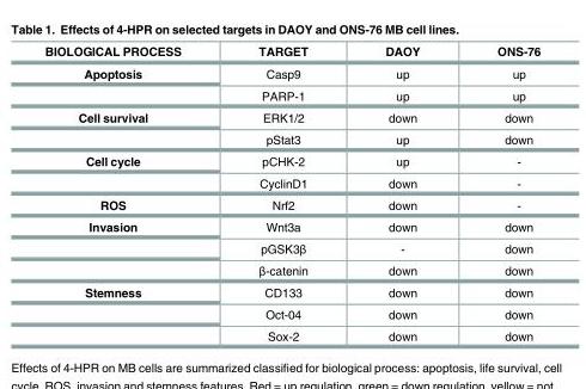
<table><thead><tr><td>BIOLOGICAL PROCESS</td><td>TARGET</td><td>DAOY</td><td>ONS-76</td></tr></thead><tbody><tr><td rowspan="2">Apoptosis</td><td>Casp9</td><td>up</td><td>up</td></tr><tr><td>PARP-1</td><td>up</td><td>up</td></tr><tr><td rowspan="2">Cell survival</td><td>ERK1/2</td><td>down</td><td>down</td></tr><tr><td>pStat3</td><td>up</td><td>down</td></tr><tr><td rowspan="2">Cell cycle</td><td>pCHK-2</td><td>up</td><td>-</td></tr><tr><td>CyclinD1</td><td>down</td><td>-</td></tr><tr><td>ROS</td><td>Nrf2</td><td>down</td><td>-</td></tr><tr><td rowspan="3">Invasion</td><td>Wnt3a</td><td>down</td><td>down</td></tr><tr><td>pGSK3β</td><td>-</td><td>down</td></tr><tr><td>β-catenin</td><td>down</td><td>down</td></tr><tr><td rowspan="3">Stemness</td><td>CD133</td><td>down</td><td>down</td></tr><tr><td>Oct-04</td><td>down</td><td>down</td></tr><tr><td>Sox-2</td><td>down</td><td>down</td></tr></tbody></table>